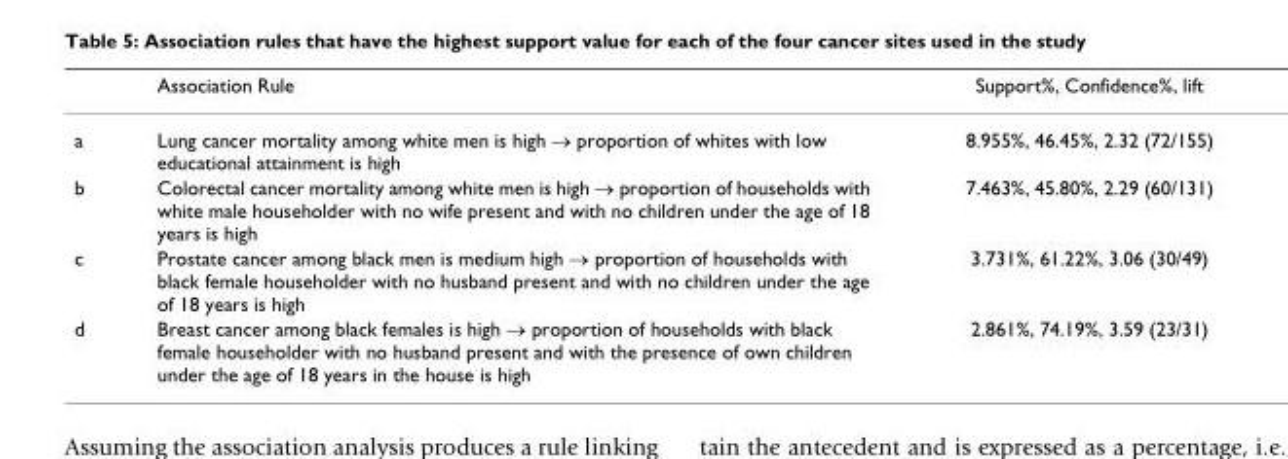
<table><thead><tr><td></td><td>Association Rule</td><td>Support%, Confidence%, lift</td></tr></thead><tbody><tr><td>a</td><td>Lung cancer mortality among white men is high → proportion of whites with low educational attainment is high</td><td>8.955%, 46.45%, 2.32 (72/155)</td></tr><tr><td>b</td><td>Colorectal cancer mortality among white men is high → proportion of households with white male householder with no wife present and with no children under the age of 18 years is high</td><td>7.463%, 45.80%, 2.29 (60/131)</td></tr><tr><td>c</td><td>Prostate cancer among black men is medium high → proportion of households with black female householder with no husband present and with no children under the age of 18 years is high</td><td>3.731%, 61.22%, 3.06 (30/49)</td></tr><tr><td>d</td><td>Breast cancer among black females is high → proportion of households with black female householder with no husband present and with the presence of own children under the age of 18 years in the house is high</td><td>2.861%, 74.19%, 3.59 (23/31)</td></tr></tbody></table>